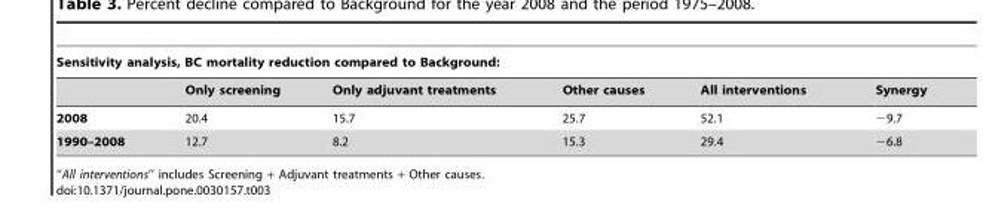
<table><thead><tr><td colspan="6">Sensitivity analysis, BC mortality reduction compared to Background:</td></tr><tr><td></td><td>Only screening</td><td>Only adjuvant treatments</td><td>Other causes</td><td>All interventions</td><td>Synergy</td></tr></thead><tbody><tr><td>2008</td><td>20.4</td><td>15.7</td><td>25.7</td><td>52.1</td><td>−9.7</td></tr><tr><td>1990–2008</td><td>12.7</td><td>8.2</td><td>15.3</td><td>29.4</td><td>−6.8</td></tr></tbody></table>